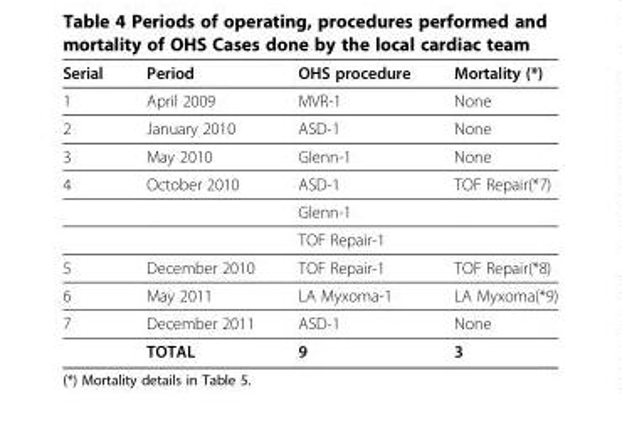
<table><thead><tr><td>Serial</td><td>Period</td><td>OHS procedure</td><td>Mortality (*)</td></tr></thead><tbody><tr><td>1</td><td>April 2009</td><td>MVR-1</td><td>None</td></tr><tr><td>2</td><td>January 2010</td><td>ASD-1</td><td>None</td></tr><tr><td>3</td><td>May 2010</td><td>Glenn-1</td><td>None</td></tr><tr><td rowspan="3">4</td><td>October 2010</td><td>ASD-1</td><td>TOF Repair(*7)</td></tr><tr><td></td><td>Glenn-1</td><td></td></tr><tr><td></td><td>TOF Repair-1</td><td></td></tr><tr><td>5</td><td>December 2010</td><td>TOF Repair-1</td><td>TOF Repair(*8)</td></tr><tr><td>6</td><td>May 2011</td><td>LA Myxoma-1</td><td>LA Myxoma(*9)</td></tr><tr><td rowspan="2">7</td><td>December 2011</td><td>ASD-1</td><td>None</td></tr><tr><td>TOTAL</td><td>9</td><td>3</td></tr></tbody></table>